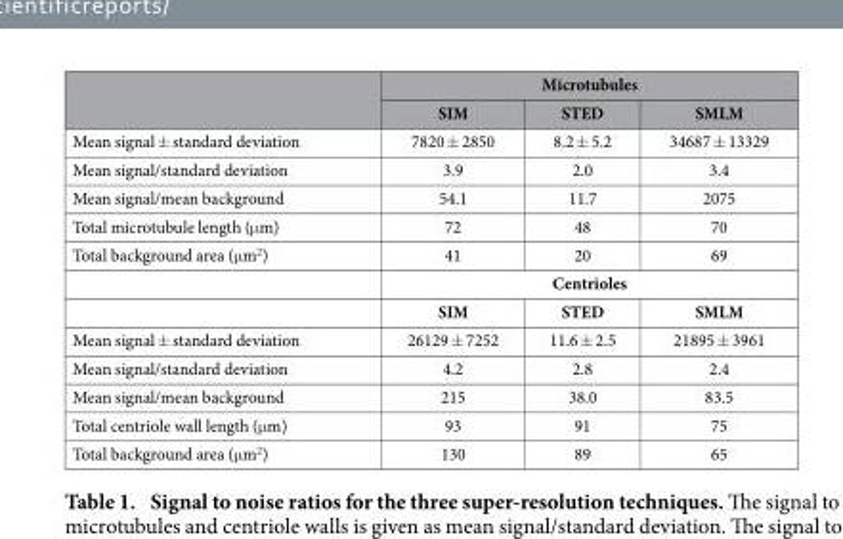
<table><thead><tr><td rowspan="2"></td><td colspan="3">Microtubules</td></tr><tr><td>SIM</td><td>STED</td><td>SMLM</td></tr></thead><tbody><tr><td>Mean signal ± standard deviation</td><td>7820 ± 2850</td><td>8.2 ± 5.2</td><td>34687 ± 13329</td></tr><tr><td>Mean signal/standard deviation</td><td>3.9</td><td>2.0</td><td>3.4</td></tr><tr><td>Mean signal/mean background</td><td>54.1</td><td>11.7</td><td>2075</td></tr><tr><td>Total microtubule length (μ m)</td><td>72</td><td>48</td><td>70</td></tr><tr><td rowspan="3">Total background area (μ m<sup>2</sup>)</td><td>41</td><td>20</td><td>69</td></tr><tr><td colspan="3">Centrioles</td></tr><tr><td>SIM</td><td>STED</td><td>SMLM</td></tr><tr><td>Mean signal ± standard deviation</td><td>26129 ± 7252</td><td>11.6 ± 2.5</td><td>21895 ± 3961</td></tr><tr><td>Mean signal/standard deviation</td><td>4.2</td><td>2.8</td><td>2.4</td></tr><tr><td>Mean signal/mean background</td><td>215</td><td>38.0</td><td>83.5</td></tr><tr><td>Total centriole wall length (μ m)</td><td>93</td><td>91</td><td>75</td></tr><tr><td>Total background area (μ m<sup>2</sup>)</td><td>130</td><td>89</td><td>65</td></tr></tbody></table>